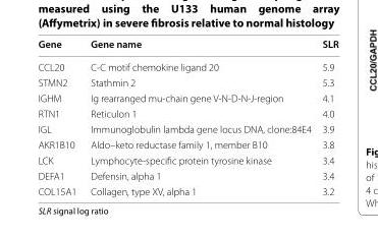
<table><thead><tr><td>Gene</td><td>Gene name</td><td>SLR</td></tr></thead><tbody><tr><td>CCL20</td><td>C-C motif chemokine ligand 20</td><td>5.9</td></tr><tr><td>STMN2</td><td>Stathmin 2</td><td>5.3</td></tr><tr><td>IGHM</td><td>Ig rearranged mu-chain gene V-N-D-N-J-region</td><td>4.1</td></tr><tr><td>RTN1</td><td>Reticulon 1</td><td>4.0</td></tr><tr><td>IGL</td><td>Immunoglobulin lambda gene locus DNA, clone:84E4</td><td>3.9</td></tr><tr><td>AKR1B10</td><td>Aldo–keto reductase family 1, member B10</td><td>3.8</td></tr><tr><td>LCK</td><td>Lymphocyte-specific protein tyrosine kinase</td><td>3.4</td></tr><tr><td>DEFA1</td><td>Defensin, alpha 1</td><td>3.4</td></tr><tr><td>COL15A1</td><td>Collagen, type XV, alpha 1</td><td>3.2</td></tr></tbody></table>